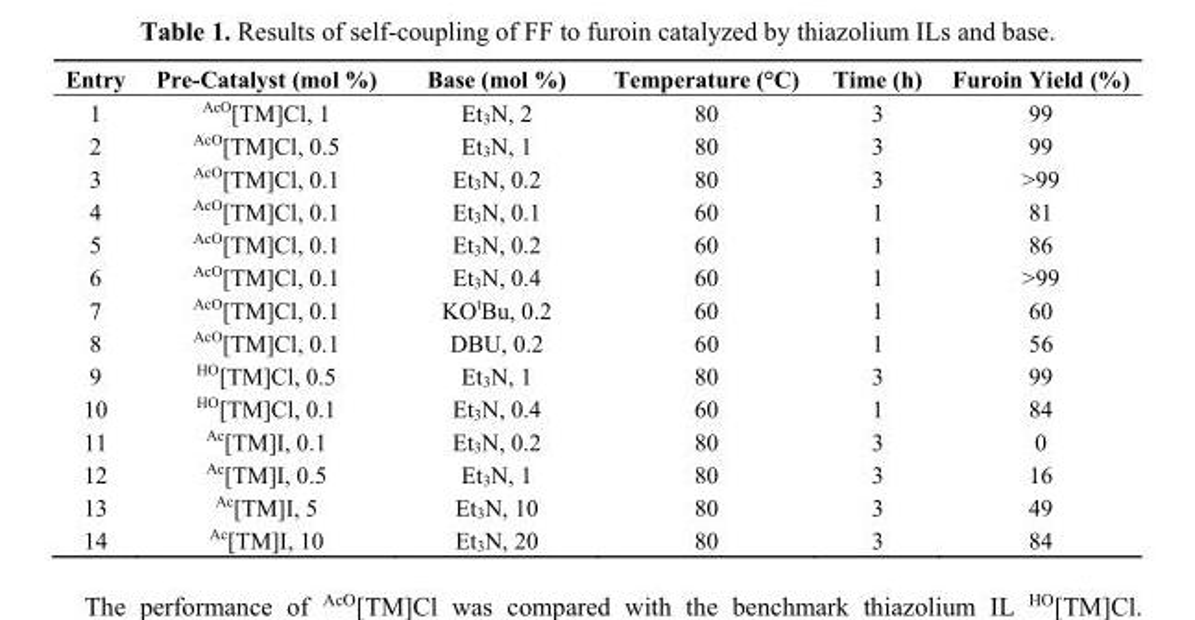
<table><thead><tr><td>Entry</td><td>Pre-Catalyst (mol %)</td><td>Base (mol %)</td><td>Temperature (°C)</td><td>Time (h)</td><td>Furoin Yield (%)</td></tr></thead><tbody><tr><td>1</td><td><sup>AcO</sup>[TM]Cl, 1</td><td>Et<sub>3</sub>N, 2</td><td>80</td><td>3</td><td>99</td></tr><tr><td>2</td><td><sup>AcO</sup>[TM]Cl, 0.5</td><td>Et<sub>3</sub>N, 1</td><td>80</td><td>3</td><td>99</td></tr><tr><td>3</td><td><sup>AcO</sup>[TM]Cl, 0.1</td><td>Et<sub>3</sub>N, 0.2</td><td>80</td><td>3</td><td>&gt;99</td></tr><tr><td>4</td><td><sup>AcO</sup>[TM]Cl, 0.1</td><td>Et<sub>3</sub>N, 0.1</td><td>60</td><td>1</td><td>81</td></tr><tr><td>5</td><td><sup>AcO</sup>[TM]Cl, 0.1</td><td>Et<sub>3</sub>N, 0.2</td><td>60</td><td>1</td><td>86</td></tr><tr><td>6</td><td><sup>AcO</sup>[TM]Cl, 0.1</td><td>Et<sub>3</sub>N, 0.4</td><td>60</td><td>1</td><td>&gt;99</td></tr><tr><td>7</td><td><sup>AcO</sup>[TM]Cl, 0.1</td><td>KO<sup>t</sup>Bu, 0.2</td><td>60</td><td>1</td><td>60</td></tr><tr><td>8</td><td><sup>AcO</sup>[TM]Cl, 0.1</td><td>DBU, 0.2</td><td>60</td><td>1</td><td>56</td></tr><tr><td>9</td><td><sup>HO</sup>[TM]Cl, 0.5</td><td>Et<sub>3</sub>N, 1</td><td>80</td><td>3</td><td>99</td></tr><tr><td>10</td><td><sup>HO</sup>[TM]Cl, 0.1</td><td>Et<sub>3</sub>N, 0.4</td><td>60</td><td>1</td><td>84</td></tr><tr><td>11</td><td><sup>Ac</sup>[TM]I, 0.1</td><td>Et<sub>3</sub>N, 0.2</td><td>80</td><td>3</td><td>0</td></tr><tr><td>12</td><td><sup>Ac</sup>[TM]I, 0.5</td><td>Et<sub>3</sub>N, 1</td><td>80</td><td>3</td><td>16</td></tr><tr><td>13</td><td><sup>Ac</sup>[TM]I, 5</td><td>Et<sub>3</sub>N, 10</td><td>80</td><td>3</td><td>49</td></tr><tr><td>14</td><td><sup>Ac</sup>[TM]I, 10</td><td>Et<sub>3</sub>N, 20</td><td>80</td><td>3</td><td>84</td></tr></tbody></table>